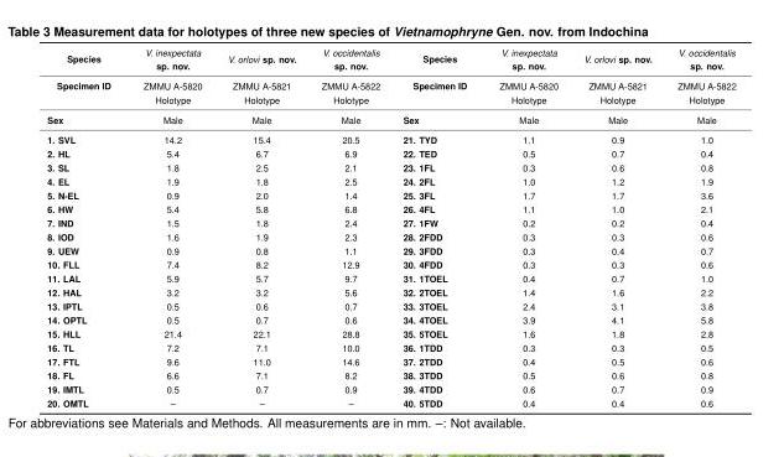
<table><thead><tr><td rowspan="2">Species Specimen ID</td><td rowspan="2">V. inexpectata sp. nov. ZMMU A-5820</td><td rowspan="2">V. orlovi sp. nov. ZMMU A-5821</td><td rowspan="2">V. occidentalis sp. nov. ZMMU A-5822</td><td rowspan="2">Species Specimen ID</td><td rowspan="2">V. inexpectata sp. nov. ZMMU A-5820</td><td rowspan="2">V. orlovi sp. nov. ZMMU A-5821</td><td rowspan="2">V. occidentalis sp. nov. ZMMU A-5822</td></tr><tr></tr></thead><tbody><tr><td></td><td>Holotype</td><td>Holotype</td><td>Holotype</td><td></td><td>Holotype</td><td>Holotype</td><td>Holotype</td></tr><tr><td>Sex</td><td>Male</td><td>Male</td><td>Male</td><td>Sex</td><td>Male</td><td>Male</td><td>Male</td></tr><tr><td>1. SVL</td><td>14.2</td><td>15.4</td><td>20.5</td><td>21. TYD</td><td>1.1</td><td>0.9</td><td>1.0</td></tr><tr><td>2. HL</td><td>5.4</td><td>6.7</td><td>6.9</td><td>22. TED</td><td>0.5</td><td>0.7</td><td>0.4</td></tr><tr><td>3. SL</td><td>1.8</td><td>2.5</td><td>2.1</td><td>23. 1FL</td><td>0.3</td><td>0.6</td><td>0.8</td></tr><tr><td>4. EL</td><td>1.9</td><td>1.8</td><td>2.5</td><td>24. 2FL</td><td>1.0</td><td>1.2</td><td>1.9</td></tr><tr><td>5. N-EL</td><td>0.9</td><td>2.0</td><td>1.4</td><td>25. 3FL</td><td>1.7</td><td>1.7</td><td>3.6</td></tr><tr><td>6. HW</td><td>5.4</td><td>5.8</td><td>6.8</td><td>26. 4FL</td><td>1.1</td><td>1.0</td><td>2.1</td></tr><tr><td>7. IND</td><td>1.5</td><td>1.8</td><td>2.4</td><td>27. 1FW</td><td>0.2</td><td>0.2</td><td>0.4</td></tr><tr><td>8. IOD</td><td>1.6</td><td>1.9</td><td>2.3</td><td>28. 2FDD</td><td>0.3</td><td>0.3</td><td>0.6</td></tr><tr><td>9. UEW</td><td>0.9</td><td>0.8</td><td>1.1</td><td>29. 3FDD</td><td>0.3</td><td>0.4</td><td>0.7</td></tr><tr><td>10. FLL</td><td>7.4</td><td>8.2</td><td>12.9</td><td>30. 4FDD</td><td>0.3</td><td>0.3</td><td>0.6</td></tr><tr><td>11. LAL</td><td>5.9</td><td>5.7</td><td>9.7</td><td>31. 1TOEL</td><td>0.4</td><td>0.7</td><td>1.0</td></tr><tr><td>12. HAL</td><td>3.2</td><td>3.2</td><td>5.6</td><td>32. 2TOEL</td><td>1.4</td><td>1.6</td><td>2.2</td></tr><tr><td>13. IPTL</td><td>0.5</td><td>0.6</td><td>0.7</td><td>33. 3TOEL</td><td>2.4</td><td>3.1</td><td>3.8</td></tr><tr><td>14. OPTL</td><td>0.5</td><td>0.7</td><td>0.6</td><td>34. 4TOEL</td><td>3.9</td><td>4.1</td><td>5.8</td></tr><tr><td>15. HLL</td><td>21.4</td><td>22.1</td><td>28.8</td><td>35. 5TOEL</td><td>1.6</td><td>1.8</td><td>2.8</td></tr><tr><td>16. TL</td><td>7.2</td><td>7.1</td><td>10.0</td><td>36. 1TDD</td><td>0.3</td><td>0.3</td><td>0.5</td></tr><tr><td>17. FTL</td><td>9.6</td><td>11.0</td><td>14.6</td><td>37. 2TDD</td><td>0.4</td><td>0.5</td><td>0.6</td></tr><tr><td>18. FL</td><td>6.6</td><td>7.1</td><td>8.2</td><td>38. 3TDD</td><td>0.5</td><td>0.6</td><td>0.8</td></tr><tr><td>19. IMTL</td><td>0.5</td><td>0.7</td><td>0.9</td><td>39. 4TDD</td><td>0.6</td><td>0.7</td><td>0.9</td></tr><tr><td>20. OMTL</td><td>–</td><td>–</td><td>–</td><td>40. 5TDD</td><td>0.4</td><td>0.4</td><td>0.6</td></tr></tbody></table>